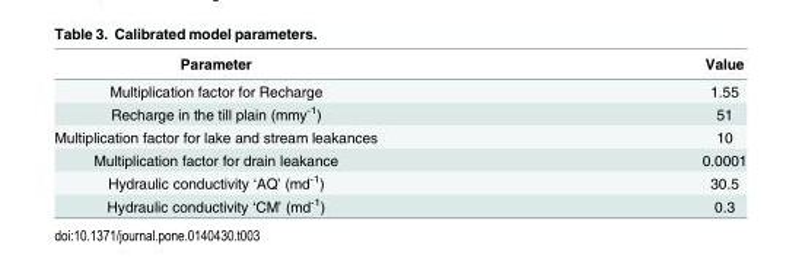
<table><thead><tr><td>Parameter</td><td>Value</td></tr></thead><tbody><tr><td>Multiplication factor for Recharge</td><td>1.55</td></tr><tr><td>Recharge in the till plain (mmy<sup>-1</sup>)</td><td>51</td></tr><tr><td>Multiplication factor for lake and stream leakances</td><td>10</td></tr><tr><td>Multiplication factor for drain leakance</td><td>0.0001</td></tr><tr><td>Hydraulic conductivity ‘AQ’ (md<sup>-1</sup>)</td><td>30.5</td></tr><tr><td>Hydraulic conductivity ‘CM’ (md<sup>-1</sup>)</td><td>0.3</td></tr></tbody></table>